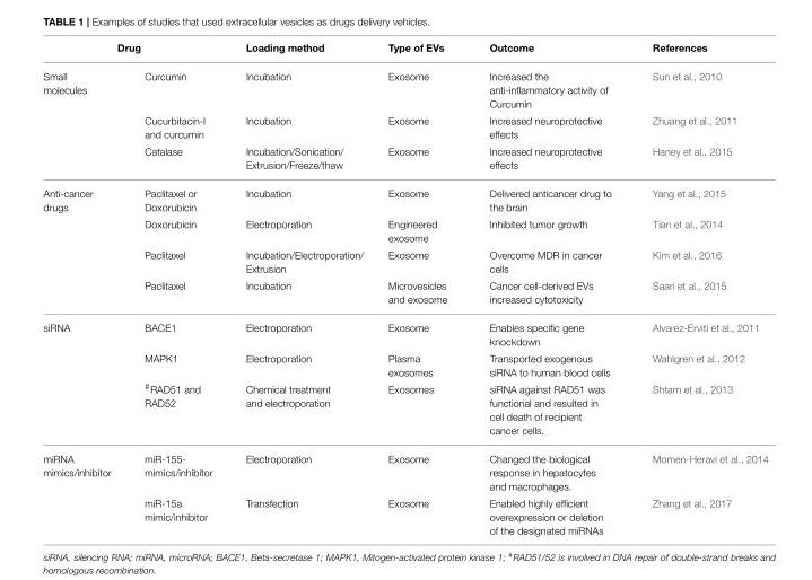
<table><thead><tr><td colspan="2">Drug</td><td rowspan="2">Loading method Incubation</td><td rowspan="2">Type of EVs Exosome</td><td rowspan="2">Outcome Increased the anti-inflammatory activity of Curcumin</td><td rowspan="2">References Sun et al., 2010</td></tr><tr><td>Small molecules</td><td>Curcumin</td></tr></thead><tbody><tr><td></td><td>Cucurbitacin-I and curcumin</td><td>Incubation</td><td>Exosome</td><td>Increased neuroprotective effects</td><td>Zhuang et al., 2011</td></tr><tr><td></td><td>Catalase</td><td>Incubation/Sonication/ Extrusion/Freeze/thaw</td><td>Exosome</td><td>Increased neuroprotective effects</td><td>Haney et al., 2015</td></tr><tr><td rowspan="4">Anti-cancer drugs</td><td>Paclitaxel or Doxorubicin</td><td>Incubation</td><td>Exosome</td><td>Delivered anticancer drug to the brain</td><td>Yang et al., 2015</td></tr><tr><td>Doxorubicin</td><td>Electroporation</td><td>Engineered exosome</td><td>Inhibited tumor growth</td><td>Tian et al., 2014</td></tr><tr><td>Paclitaxel</td><td>Incubation/Electroporation/ Extrusion</td><td>Exosome</td><td>Overcome MDR in cancer cells</td><td>Kim et al., 2016</td></tr><tr><td>Paclitaxel</td><td>Incubation</td><td>Microvesicles and exosome</td><td>Cancer cell-derived EVs increased cytotoxicity</td><td>Saari et al., 2015</td></tr><tr><td rowspan="3">siRNA</td><td>BACE1</td><td>Electroporation</td><td>Exosome</td><td>Enables specific gene knockdown</td><td>Alvarez-Erviti et al., 2011</td></tr><tr><td>MAPK1</td><td>Electroporation</td><td>Plasma exosomes</td><td>Transported exogenous siRNA to human blood cells</td><td>Wahlgren et al., 2012</td></tr><tr><td><sup>#</sup>RAD51 and RAD52</td><td>Chemical treatment and electroporation</td><td>Exosomes</td><td>siRNA against RAD51 was functional and resulted in cell death of recipient cancer cells.</td><td>Shtam et al., 2013</td></tr><tr><td rowspan="2">miRNA mimics/inhibitor</td><td>miR-155- mimics/inhibitor</td><td>Electroporation</td><td>Exosome</td><td>Changed the biological response in hepatocytes and macrophages.</td><td>Momen-Heravi et al., 2014</td></tr><tr><td>miR-15a mimic/inhibitor</td><td>Transfection</td><td>Exosome</td><td>Enabled highly efficient overexpression or deletion of the designated miRNAs</td><td>Zhang et al., 2017</td></tr></tbody></table>